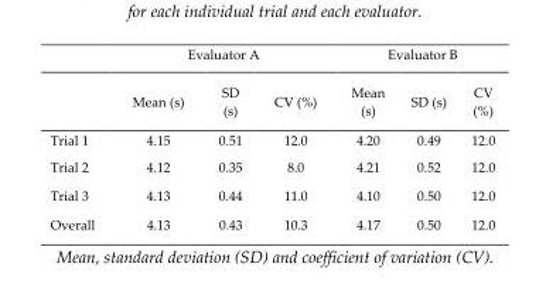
<table><thead><tr><td rowspan="2"></td><td colspan="3">Evaluator A</td><td colspan="3">Evaluator B</td></tr><tr><td>Mean (s)</td><td>SD (s)</td><td>CV (%)</td><td>Mean (s)</td><td>SD (s)</td><td>CV (%)</td></tr></thead><tbody><tr><td>Trial 1</td><td>4.15</td><td>0.51</td><td>12.0</td><td>4.20</td><td>0.49</td><td>12.0</td></tr><tr><td>Trial 2</td><td>4.12</td><td>0.35</td><td>8.0</td><td>4.21</td><td>0.52</td><td>12.0</td></tr><tr><td>Trial 3</td><td>4.13</td><td>0.44</td><td>11.0</td><td>4.10</td><td>0.50</td><td>12.0</td></tr><tr><td>Overall</td><td>4.13</td><td>0.43</td><td>10.3</td><td>4.17</td><td>0.50</td><td>12.0</td></tr></tbody></table>